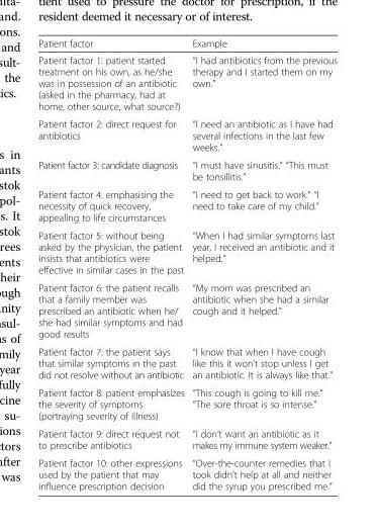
<table><thead><tr><td>Patient factor</td><td>Example</td></tr></thead><tbody><tr><td>Patient factor 1: patient started treatment on his own, as he/she was in possession of an antibiotic (asked in the pharmacy, had at home, other source, what source?)</td><td>“I had antibiotics from the previous therapy and I started them on my own.”</td></tr><tr><td>Patient factor 2: direct request for antibiotics</td><td>“I need an antibiotic as I have had several infections in the last few weeks.”</td></tr><tr><td>Patient factor 3: candidate diagnosis</td><td>“I must have sinusitis.” “This must be tonsillitis.”</td></tr><tr><td>Patient factor 4: emphasising the necessity of quick recovery, appealing to life circumstances</td><td>“I need to get back to work.” “I need to take care of my child.”</td></tr><tr><td>Patient factor 5: without being asked by the physician, the patient insists that antibiotics were effective in similar cases in the past</td><td>“When I had similar symptoms last year, I received an antibiotic and it helped.”</td></tr><tr><td>Patient factor 6: the patient recalls that a family member was prescribed an antibiotic when he/ she had similar symptoms and had good results</td><td>“My mom was prescribed an antibiotic when she had a similar cough and it helped.”</td></tr><tr><td>Patient factor 7: the patient says that similar symptoms in the past did not resolve without an antibiotic</td><td>“I know that when I have cough like this it won’t stop unless I get an antibiotic. It is always like that.”</td></tr><tr><td>Patient factor 8: patient emphasizes the severity of symptoms (portraying severity of illness)</td><td>“This cough is going to kill me.” “The sore throat is so intense.”</td></tr><tr><td>Patient factor 9: direct request not to prescribe antibiotics</td><td>“I don’t want an antibiotic as it makes my immune system weaker.”</td></tr><tr><td>Patient factor 10: other expressions used by the patient that may influence prescription decision</td><td>“Over-the-counter remedies that I took didn’t help at all and neither did the syrup you prescribed me.”</td></tr></tbody></table>